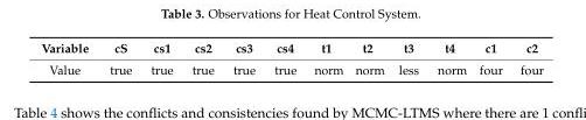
<table><thead><tr><td>Variable</td><td>cS</td><td>cs1</td><td>cs2</td><td>cs3</td><td>cs4</td><td>t1</td><td>t2</td><td>t3</td><td>t4</td><td>c1</td><td>c2</td></tr></thead><tbody><tr><td>Value</td><td>true</td><td>true</td><td>true</td><td>true</td><td>true</td><td>norm</td><td>norm</td><td>less</td><td>norm</td><td>four</td><td>four</td></tr></tbody></table>